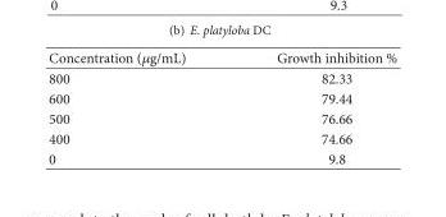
<table><thead><tr><td>Concentration (𝜇𝜇g/mL)</td><td>Growth inhibition %</td></tr></thead><tbody><tr><td>800</td><td>82.33</td></tr><tr><td>600</td><td>79.44</td></tr><tr><td>500</td><td>76.66</td></tr><tr><td>400</td><td>74.66</td></tr><tr><td>0</td><td>9.8</td></tr></tbody></table>